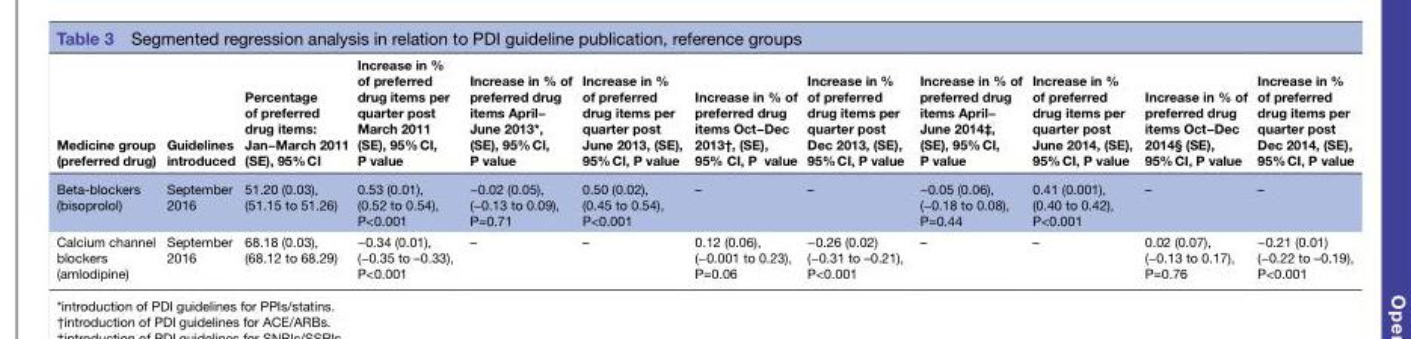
<table><thead><tr><td>Medicine group (preferred drug)</td><td>Guidelines introduced</td><td>Percentage of preferred drug items: Jan−March 2011 (SE), 95% CI</td><td>Increase in % of preferred drug items per quarter post March 2011 (SE), 95% CI, P value</td><td>Increase in % of preferred drug items April− June 2013*, (SE), 95% CI, P value</td><td>Increase in % of preferred drug items per quarter post June 2013, (SE), 95% CI, P value</td><td>Increase in % of preferred drug items Oct−Dec 2013†, (SE), 95% CI, P value</td><td>Increase in % of preferred drug items per quarter post Dec 2013, (SE), 95% CI, P value</td><td>Increase in % of preferred drug items April− June 2014‡, (SE), 95% CI, P value</td><td>Increase in % of preferred drug items per quarter post June 2014, (SE), 95% CI, P value</td><td>Increase in % of preferred drug items Oct−Dec 2014§ (SE), 95% CI, P value</td><td>Increase in % of preferred drug items per quarter post Dec 2014, (SE), 95% CI, P value</td></tr></thead><tbody><tr><td>Beta-blockers (bisoprolol)</td><td>September 2016</td><td>51.20 (0.03), (51.15 to 51.26)</td><td>0.53 (0.01), (0.52 to 0.54), P&lt;0.001</td><td>−0.02 (0.05), (−0.13 to 0.09), P=0.71</td><td>0.50 (0.02), (0.45 to 0.54), P&lt;0.001</td><td>–</td><td>–</td><td>−0.05 (0.06), (−0.18 to 0.08), P=0.44</td><td>0.41 (0.001), (0.40 to 0.42), P&lt;0.001</td><td>–</td><td>–</td></tr><tr><td>Calcium channel blockers (amlodipine)</td><td>September 2016</td><td>68.18 (0.03), (68.12 to 68.29)</td><td>−0.34 (0.01), (−0.35 to –0.33), P&lt;0.001</td><td>–</td><td>–</td><td>0.12 (0.06), (−0.001 to 0.23), P=0.06</td><td>−0.26 (0.02) (−0.31 to –0.21), P&lt;0.001</td><td>–</td><td>–</td><td>0.02 (0.07), (−0.13 to 0.17), P=0.76</td><td>−0.21 (0.01) (−0.22 to –0.19), P&lt;0.001</td></tr></tbody></table>